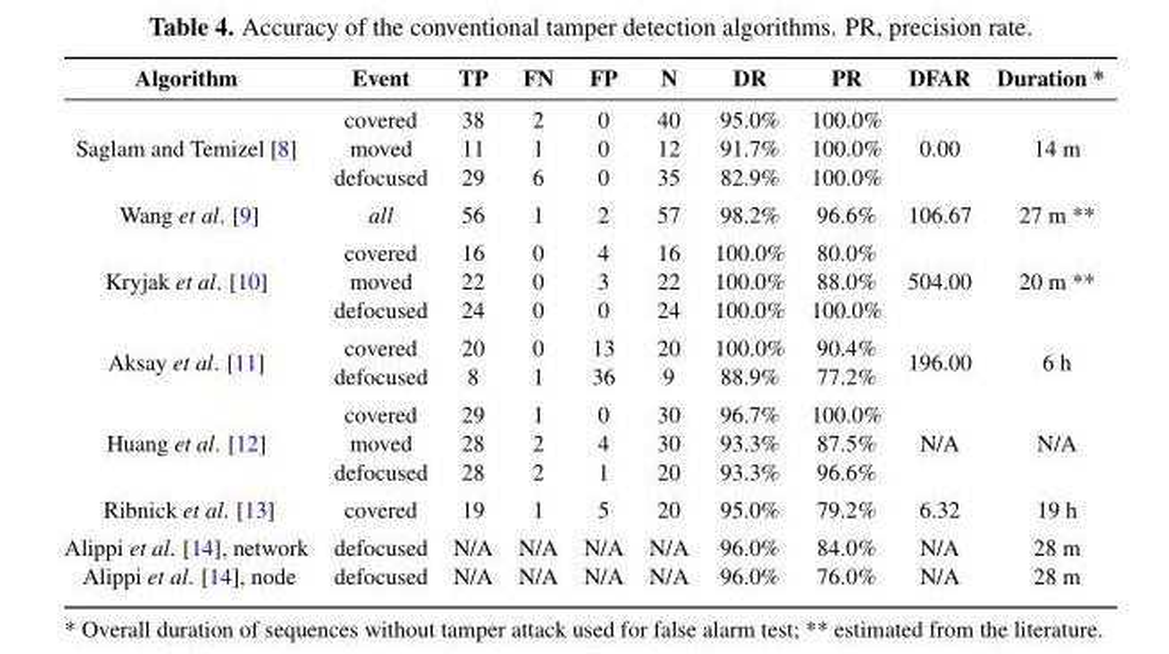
<table><thead><tr><td>Algorithm</td><td>Event</td><td>TP</td><td>FN</td><td>FP</td><td>N</td><td>DR</td><td>PR</td><td>DFAR</td><td>Duration *</td></tr></thead><tbody><tr><td rowspan="3">Saglam and Temizel [8]</td><td>covered</td><td>38</td><td>2</td><td>0</td><td>40</td><td>95.0%</td><td>100.0%</td><td></td><td></td></tr><tr><td>moved</td><td>11</td><td>1</td><td>0</td><td>12</td><td>91.7%</td><td>100.0%</td><td>0.00</td><td>14 m</td></tr><tr><td>defocused</td><td>29</td><td>6</td><td>0</td><td>35</td><td>82.9%</td><td>100.0%</td><td></td><td></td></tr><tr><td>Wang et al. [9]</td><td>all</td><td>56</td><td>1</td><td>2</td><td>57</td><td>98.2%</td><td>96.6%</td><td>106.67</td><td>27 m **</td></tr><tr><td rowspan="3">Kryjak et al. [10]</td><td>covered</td><td>16</td><td>0</td><td>4</td><td>16</td><td>100.0%</td><td>80.0%</td><td></td><td></td></tr><tr><td>moved</td><td>22</td><td>0</td><td>3</td><td>22</td><td>100.0%</td><td>88.0%</td><td>504.00</td><td>20 m **</td></tr><tr><td>defocused</td><td>24</td><td>0</td><td>0</td><td>24</td><td>100.0%</td><td>100.0%</td><td></td><td></td></tr><tr><td rowspan="2">Aksay et al. [11]</td><td>covered</td><td>20</td><td>0</td><td>13</td><td>20</td><td>100.0%</td><td>90.4%</td><td rowspan="2">196.00</td><td rowspan="2">6 h</td></tr><tr><td>defocused</td><td>8</td><td>1</td><td>36</td><td>9</td><td>88.9%</td><td>77.2%</td></tr><tr><td rowspan="3">Huang et al. [12]</td><td>covered</td><td>29</td><td>1</td><td>0</td><td>30</td><td>96.7%</td><td>100.0%</td><td></td><td></td></tr><tr><td>moved</td><td>28</td><td>2</td><td>4</td><td>30</td><td>93.3%</td><td>87.5%</td><td>N/A</td><td>N/A</td></tr><tr><td>defocused</td><td>28</td><td>2</td><td>1</td><td>20</td><td>93.3%</td><td>96.6%</td><td></td><td></td></tr><tr><td>Ribnick et al. [13]</td><td>covered</td><td>19</td><td>1</td><td>5</td><td>20</td><td>95.0%</td><td>79.2%</td><td>6.32</td><td>19 h</td></tr><tr><td>Alippi et al. [14], network</td><td>defocused</td><td>N/A</td><td>N/A</td><td>N/A</td><td>N/A</td><td>96.0%</td><td>84.0%</td><td>N/A</td><td>28 m</td></tr><tr><td>Alippi et al. [14], node</td><td>defocused</td><td>N/A</td><td>N/A</td><td>N/A</td><td>N/A</td><td>96.0%</td><td>76.0%</td><td>N/A</td><td>28 m</td></tr></tbody></table>